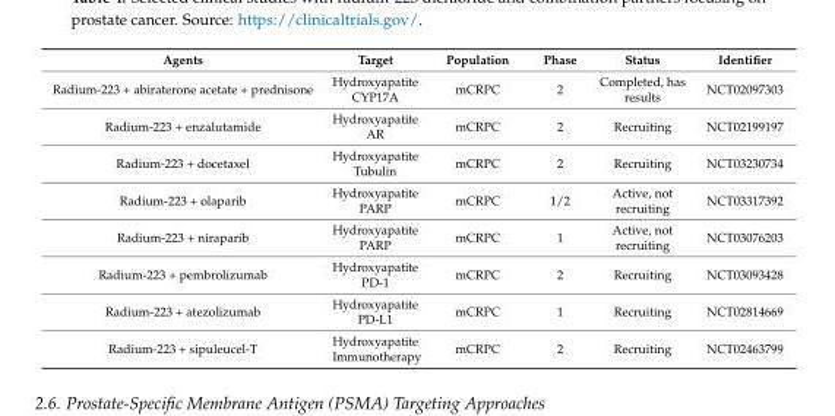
<table><thead><tr><td>Agents</td><td>Target</td><td>Population</td><td>Phase</td><td>Status</td><td>Identifier</td></tr></thead><tbody><tr><td>Radium-223 + abiraterone acetate + prednisone</td><td>Hydroxyapatite CYP17A</td><td>mCRPC</td><td>2</td><td>Completed, has results</td><td>NCT02097303</td></tr><tr><td>Radium-223 + enzalutamide</td><td>Hydroxyapatite AR</td><td>mCRPC</td><td>2</td><td>Recruiting</td><td>NCT02199197</td></tr><tr><td>Radium-223 + docetaxel</td><td>Hydroxyapatite Tubulin</td><td>mCRPC</td><td>2</td><td>Recruiting</td><td>NCT03230734</td></tr><tr><td>Radium-223 + olaparib</td><td>Hydroxyapatite PARP</td><td>mCRPC</td><td>1/2</td><td>Active, not recruiting</td><td>NCT03317392</td></tr><tr><td>Radium-223 + niraparib</td><td>Hydroxyapatite PARP</td><td>mCRPC</td><td>1</td><td>Active, not recruiting</td><td>NCT03076203</td></tr><tr><td>Radium-223 + pembrolizumab</td><td>Hydroxyapatite PD-1</td><td>mCRPC</td><td>2</td><td>Recruiting</td><td>NCT03093428</td></tr><tr><td>Radium-223 + atezolizumab</td><td>Hydroxyapatite PD-L1</td><td>mCRPC</td><td>1</td><td>Recruiting</td><td>NCT02814669</td></tr><tr><td>Radium-223 + sipuleucel-T</td><td>Hydroxyapatite Immunotherapy</td><td>mCRPC</td><td>2</td><td>Recruiting</td><td>NCT02463799</td></tr></tbody></table>